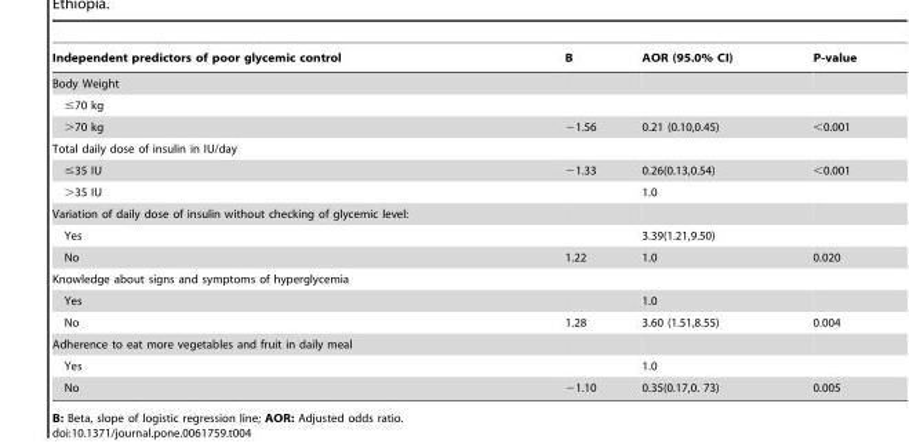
<table><thead><tr><td>Independent predictors of poor glycemic control</td><td>B</td><td>AOR (95.0% CI)</td><td>P-value</td></tr></thead><tbody><tr><td colspan="4">Body Weight</td></tr><tr><td colspan="4">≤70 kg</td></tr><tr><td>&gt;70 kg</td><td>−1.56</td><td>0.21 (0.10,0.45)</td><td>&lt;0.001</td></tr><tr><td colspan="4">Total daily dose of insulin in IU/day</td></tr><tr><td>≤35 IU</td><td>−1.33</td><td>0.26(0.13,0.54)</td><td>&lt;0.001</td></tr><tr><td>&gt;35 IU</td><td></td><td>1.0</td><td></td></tr><tr><td colspan="4">Variation of daily dose of insulin without checking of glycemic level:</td></tr><tr><td>Yes</td><td></td><td>3.39(1.21,9.50)</td><td></td></tr><tr><td>No</td><td>1.22</td><td>1.0</td><td>0.020</td></tr><tr><td colspan="4">Knowledge about signs and symptoms of hyperglycemia</td></tr><tr><td>Yes</td><td></td><td>1.0</td><td></td></tr><tr><td>No</td><td>1.28</td><td>3.60 (1.51,8.55)</td><td>0.004</td></tr><tr><td colspan="4">Adherence to eat more vegetables and fruit in daily meal</td></tr><tr><td>Yes</td><td></td><td>1.0</td><td></td></tr><tr><td>No</td><td>−1.10</td><td>0.35(0.17,0. 73)</td><td>0.005</td></tr></tbody></table>